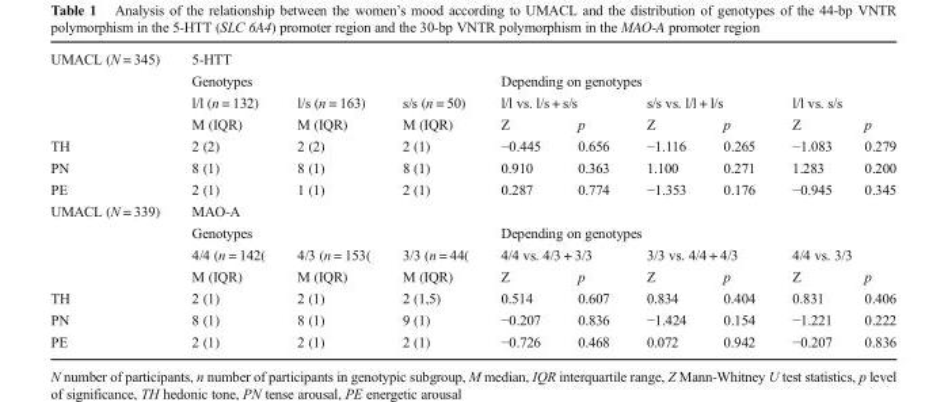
<table><tbody><tr><td rowspan="4">UMACL (N = 345)</td><td colspan="9">5-HTT</td></tr><tr><td colspan="3">Genotypes</td><td colspan="6">Depending on genotypes</td></tr><tr><td>l/l (n = 132)</td><td>l/s (n = 163)</td><td>s/s (n = 50)</td><td colspan="2">l/l vs. l/s + s/s</td><td colspan="2">s/s vs. l/l + l/s</td><td colspan="2">l/l vs. s/s</td></tr><tr><td>M (IQR)</td><td>M (IQR)</td><td>M (IQR)</td><td>Z</td><td>p</td><td>Z</td><td>p</td><td>Z</td><td>p</td></tr><tr><td>TH</td><td>2 (2)</td><td>2 (2)</td><td>2 (1)</td><td>−0.445</td><td>0.656</td><td>−1.116</td><td>0.265</td><td>−1.083</td><td>0.279</td></tr><tr><td>PN</td><td>8 (1)</td><td>8 (1)</td><td>8 (1)</td><td>0.910</td><td>0.363</td><td>1.100</td><td>0.271</td><td>1.283</td><td>0.200</td></tr><tr><td>PE</td><td>2 (1)</td><td>1 (1)</td><td>2 (1)</td><td>0.287</td><td>0.774</td><td>−1.353</td><td>0.176</td><td>−0.945</td><td>0.345</td></tr><tr><td rowspan="4">UMACL (N = 339)</td><td colspan="9">MAO-A</td></tr><tr><td colspan="3">Genotypes</td><td colspan="6">Depending on genotypes</td></tr><tr><td>4/4 (n = 142(</td><td>4/3 (n = 153(</td><td>3/3 (n = 44(</td><td colspan="2">4/4 vs. 4/3 + 3/3</td><td colspan="2">3/3 vs. 4/4 + 4/3</td><td colspan="2">4/4 vs. 3/3</td></tr><tr><td>M (IQR)</td><td>M (IQR)</td><td>M (IQR)</td><td>Z</td><td>p</td><td>Z</td><td>p</td><td>Z</td><td>p</td></tr><tr><td>TH</td><td>2 (1)</td><td>2 (1)</td><td>2 (1,5)</td><td>0.514</td><td>0.607</td><td>0.834</td><td>0.404</td><td>0.831</td><td>0.406</td></tr><tr><td>PN</td><td>8 (1)</td><td>8 (1)</td><td>9 (1)</td><td>−0.207</td><td>0.836</td><td>−1.424</td><td>0.154</td><td>−1.221</td><td>0.222</td></tr><tr><td>PE</td><td>2 (1)</td><td>2 (1)</td><td>2 (1)</td><td>−0.726</td><td>0.468</td><td>0.072</td><td>0.942</td><td>−0.207</td><td>0.836</td></tr></tbody></table>